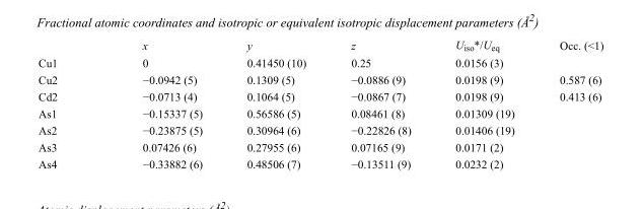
<table><thead><tr><td></td><td>x</td><td>y</td><td>z</td><td>U<sub>iso</sub>*/U<sub>eq</sub></td><td>Occ. (&lt;1)</td></tr></thead><tbody><tr><td>Cu1</td><td>0</td><td>0.41450 (10)</td><td>0.25</td><td>0.0156 (3)</td><td></td></tr><tr><td>Cu2</td><td>−0.0942 (5)</td><td>0.1309 (5)</td><td>−0.0886 (9)</td><td>0.0198 (9)</td><td>0.587 (6)</td></tr><tr><td>Cd2</td><td>−0.0713 (4)</td><td>0.1064 (5)</td><td>−0.0867 (7)</td><td>0.0198 (9)</td><td>0.413 (6)</td></tr><tr><td>As1</td><td>−0.15337 (5)</td><td>0.56586 (5)</td><td>0.08461 (8)</td><td>0.01309 (19)</td><td></td></tr><tr><td>As2</td><td>−0.23875 (5)</td><td>0.30964 (6)</td><td>−0.22826 (8)</td><td>0.01406 (19)</td><td></td></tr><tr><td>As3</td><td>0.07426 (6)</td><td>0.27955 (6)</td><td>0.07165 (9)</td><td>0.0171 (2)</td><td></td></tr><tr><td>As4</td><td>−0.33882 (6)</td><td>0.48506 (7)</td><td>−0.13511 (9)</td><td>0.0232 (2)</td><td></td></tr></tbody></table>